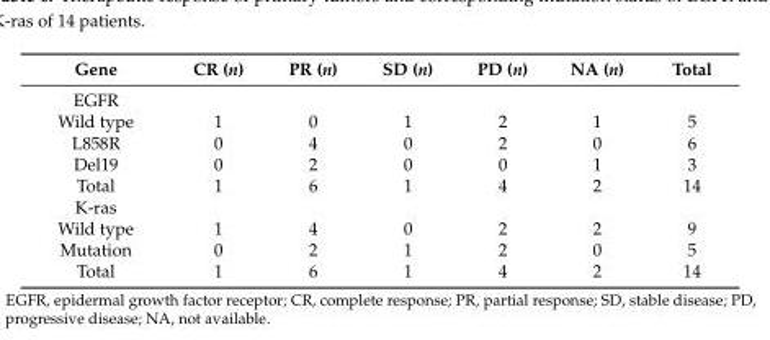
<table><thead><tr><td>Gene</td><td>CR (n)</td><td>PR (n)</td><td>SD (n)</td><td>PD (n)</td><td>NA (n)</td><td>Total</td></tr></thead><tbody><tr><td colspan="7">EGFR</td></tr><tr><td>Wild type</td><td>1</td><td>0</td><td>1</td><td>2</td><td>1</td><td>5</td></tr><tr><td>L858R</td><td>0</td><td>4</td><td>0</td><td>2</td><td>0</td><td>6</td></tr><tr><td>Del19</td><td>0</td><td>2</td><td>0</td><td>0</td><td>1</td><td>3</td></tr><tr><td>Total</td><td>1</td><td>6</td><td>1</td><td>4</td><td>2</td><td>14</td></tr><tr><td colspan="7">K-ras</td></tr><tr><td>Wild type</td><td>1</td><td>4</td><td>0</td><td>2</td><td>2</td><td>9</td></tr><tr><td>Mutation</td><td>0</td><td>2</td><td>1</td><td>2</td><td>0</td><td>5</td></tr><tr><td>Total</td><td>1</td><td>6</td><td>1</td><td>4</td><td>2</td><td>14</td></tr></tbody></table>